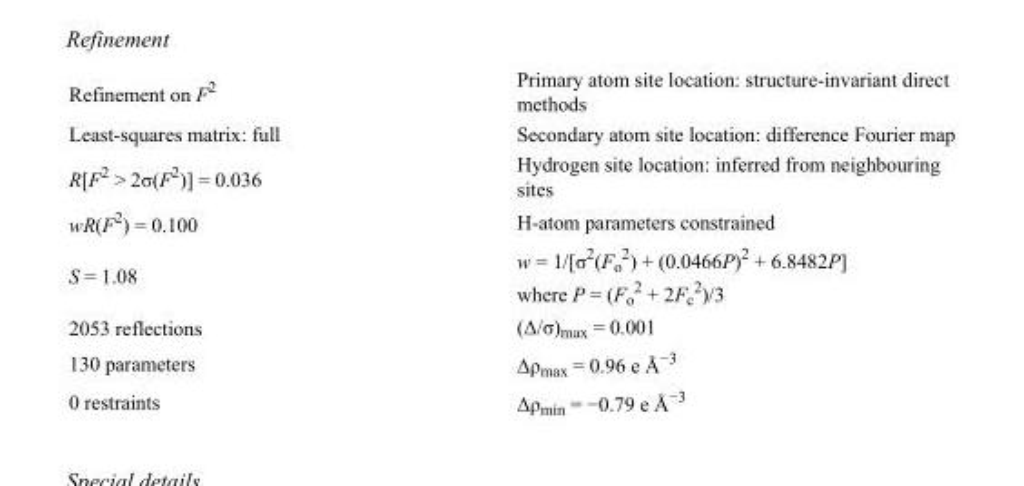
<table><tbody><tr><td>Refinement on F<sup>2</sup></td><td>Primary atom site location: structure-invariant direct methods</td></tr><tr><td>Least-squares matrix: full</td><td>Secondary atom site location: difference Fourier map</td></tr><tr><td>R[F<sup>2</sup> &gt; 2σ(F<sup>2</sup>)] = 0.036</td><td>Hydrogen site location: inferred from neighbouring sites</td></tr><tr><td>wR(F<sup>2</sup>) = 0.100</td><td>H-atom parameters constrained</td></tr><tr><td>S = 1.08</td><td>w = 1/[σ<sup>2</sup>(F<sub>o</sub> <sup>2</sup>) + (0.0466P)<sup>2</sup> + 6.8482P] where P = (F<sub>o</sub> <sup>2</sup> + 2F<sub>c</sub> <sup>2</sup>)/3</td></tr><tr><td>2053 reflections</td><td>(Δ/σ)<sub>max</sub> = 0.001</td></tr><tr><td>130 parameters</td><td>Δρ<sub>max</sub> = 0.96 e Å<sup>−3</sup></td></tr><tr><td>0 restraints</td><td>Δρ<sub>min</sub> = −0.79 e Å<sup>−3</sup></td></tr></tbody></table>